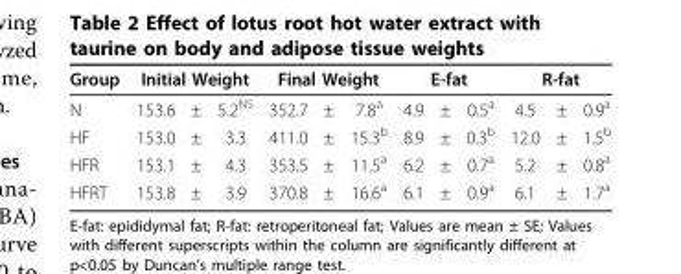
<table><thead><tr><td rowspan="2">Group N</td><td colspan="3">Initial Weight</td><td colspan="3">Final Weight</td><td colspan="3">E-fat</td><td colspan="3">R-fat</td></tr><tr><td>153.6</td><td>±</td><td>5.2<sup>NS</sup></td><td>352.7</td><td>±</td><td>7.8<sup>a</sup></td><td>4.9</td><td>±</td><td>0.5<sup>a</sup></td><td>4.5</td><td>±</td><td>0.9<sup>a</sup></td></tr></thead><tbody><tr><td>HF</td><td>153.0</td><td>±</td><td>3.3</td><td>411.0</td><td>±</td><td>15.3<sup>b</sup></td><td>8.9</td><td>±</td><td>0.3<sup>b</sup></td><td>12.0</td><td>±</td><td>1.5<sup>b</sup></td></tr><tr><td>HFR</td><td>153.1</td><td>±</td><td>4.3</td><td>353.5</td><td>±</td><td>11.5<sup>a</sup></td><td>6.2</td><td>±</td><td>0.7<sup>a</sup></td><td>5.2</td><td>±</td><td>0.8<sup>a</sup></td></tr><tr><td>HFRT</td><td>153.8</td><td>±</td><td>3.9</td><td>370.8</td><td>±</td><td>16.6<sup>a</sup></td><td>6.1</td><td>±</td><td>0.9<sup>a</sup></td><td>6.1</td><td>±</td><td>1.7<sup>a</sup></td></tr></tbody></table>